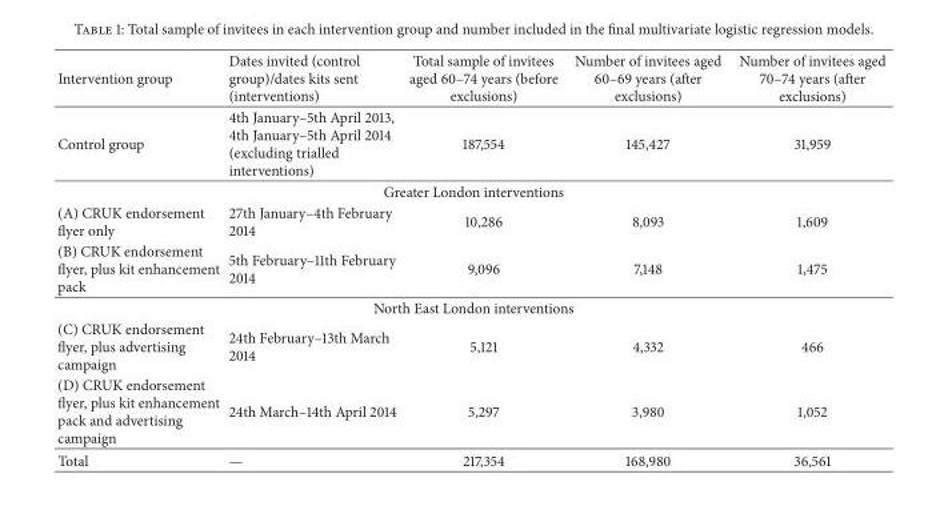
<table><thead><tr><td>Intervention group</td><td>Dates invited (control group)/dates kits sent (interventions)</td><td>Total sample of invitees aged 60–74 years (before exclusions)</td><td>Number of invitees aged 60–69 years (after exclusions)</td><td>Number of invitees aged 70–74 years (after exclusions)</td></tr></thead><tbody><tr><td>Control group</td><td>4th January–5th April 2013, 4th January–5th April 2014 (excluding trialled interventions)</td><td>187,554</td><td>145,427</td><td>31,959</td></tr><tr><td colspan="5">Greater London interventions</td></tr><tr><td>(A) CRUK endorsement flyer only</td><td>27th January–4th February 2014</td><td>10,286</td><td>8,093</td><td>1,609</td></tr><tr><td>(B) CRUK endorsement flyer, plus kit enhancement pack</td><td>5th February–11th February 2014</td><td>9,096</td><td>7,148</td><td>1,475</td></tr><tr><td colspan="5">North East London interventions</td></tr><tr><td>(C) CRUK endorsement flyer, plus advertising campaign</td><td>24th February–13th March 2014</td><td>5,121</td><td>4,332</td><td>466</td></tr><tr><td>(D) CRUK endorsement flyer, plus kit enhancement pack and advertising campaign</td><td>24th March–14th April 2014</td><td>5,297</td><td>3,980</td><td>1,052</td></tr><tr><td>Total</td><td>—</td><td>217,354</td><td>168,980</td><td>36,561</td></tr></tbody></table>